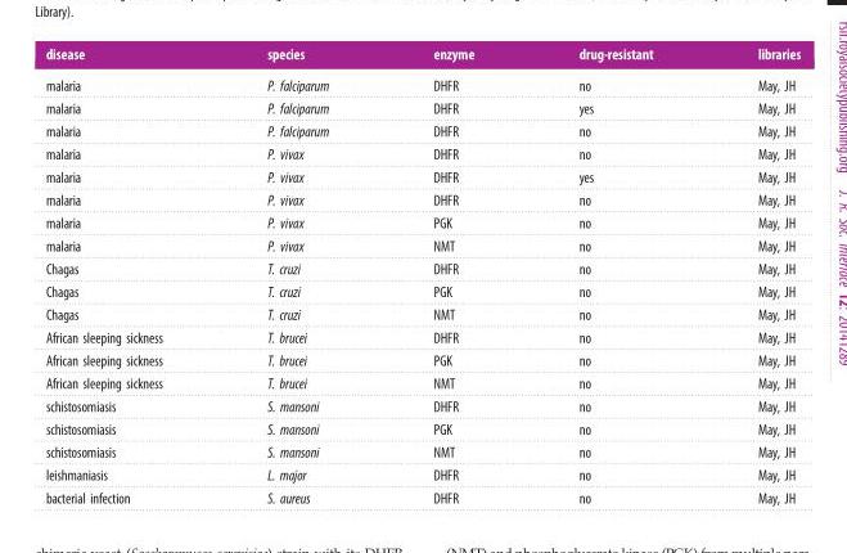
<table><thead><tr><td>disease</td><td>species</td><td>enzyme</td><td>drug-resistant</td><td>libraries</td></tr></thead><tbody><tr><td>malaria</td><td>P. falciparum</td><td>DHFR</td><td>no</td><td>May, JH</td></tr><tr><td>malaria</td><td>P. falciparum</td><td>DHFR</td><td>yes</td><td>May, JH</td></tr><tr><td>malaria</td><td>P. falciparum</td><td>DHFR</td><td>no</td><td>May, JH</td></tr><tr><td>malaria</td><td>P. vivax</td><td>DHFR</td><td>no</td><td>May, JH</td></tr><tr><td>malaria</td><td>P. vivax</td><td>DHFR</td><td>yes</td><td>May, JH</td></tr><tr><td>malaria</td><td>P. vivax</td><td>DHFR</td><td>no</td><td>May, JH</td></tr><tr><td>malaria</td><td>P. vivax</td><td>PGK</td><td>no</td><td>May, JH</td></tr><tr><td>malaria</td><td>P. vivax</td><td>NMT</td><td>no</td><td>May, JH</td></tr><tr><td>Chagas</td><td>T. cruzi</td><td>DHFR</td><td>no</td><td>May, JH</td></tr><tr><td>Chagas</td><td>T. cruzi</td><td>PGK</td><td>no</td><td>May, JH</td></tr><tr><td>Chagas</td><td>T. cruzi</td><td>NMT</td><td>no</td><td>May, JH</td></tr><tr><td>African sleeping sickness</td><td>T. brucei</td><td>DHFR</td><td>no</td><td>May, JH</td></tr><tr><td>African sleeping sickness</td><td>T. brucei</td><td>PGK</td><td>no</td><td>May, JH</td></tr><tr><td>African sleeping sickness</td><td>T. brucei</td><td>NMT</td><td>no</td><td>May, JH</td></tr><tr><td>schistosomiasis</td><td>S. mansoni</td><td>DHFR</td><td>no</td><td>May, JH</td></tr><tr><td>schistosomiasis</td><td>S. mansoni</td><td>PGK</td><td>no</td><td>May, JH</td></tr><tr><td>schistosomiasis</td><td>S. mansoni</td><td>NMT</td><td>no</td><td>May, JH</td></tr><tr><td>leishmaniasis</td><td>L. major</td><td>DHFR</td><td>no</td><td>May, JH</td></tr><tr><td>bacterial infection</td><td>S. aureus</td><td>DHFR</td><td>no</td><td>May, JH</td></tr></tbody></table>